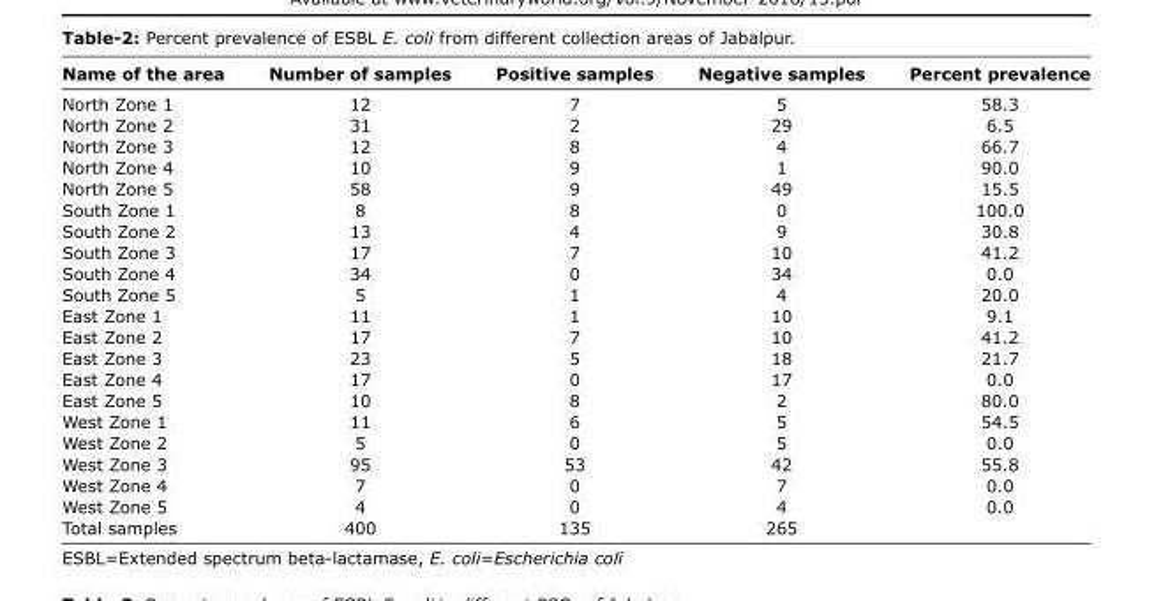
<table><thead><tr><td>Name of the area</td><td>Number of samples</td><td>Positive samples</td><td>Negative samples</td><td>Percent prevalence</td></tr></thead><tbody><tr><td>North Zone 1</td><td>12</td><td>7</td><td>5</td><td>58.3</td></tr><tr><td>North Zone 2</td><td>31</td><td>2</td><td>29</td><td>6.5</td></tr><tr><td>North Zone 3</td><td>12</td><td>8</td><td>4</td><td>66.7</td></tr><tr><td>North Zone 4</td><td>10</td><td>9</td><td>1</td><td>90.0</td></tr><tr><td>North Zone 5</td><td>58</td><td>9</td><td>49</td><td>15.5</td></tr><tr><td>South Zone 1</td><td>8</td><td>8</td><td>0</td><td>100.0</td></tr><tr><td>South Zone 2</td><td>13</td><td>4</td><td>9</td><td>30.8</td></tr><tr><td>South Zone 3</td><td>17</td><td>7</td><td>10</td><td>41.2</td></tr><tr><td>South Zone 4</td><td>34</td><td>0</td><td>34</td><td>0.0</td></tr><tr><td>South Zone 5</td><td>5</td><td>1</td><td>4</td><td>20.0</td></tr><tr><td>East Zone 1</td><td>11</td><td>1</td><td>10</td><td>9.1</td></tr><tr><td>East Zone 2</td><td>17</td><td>7</td><td>10</td><td>41.2</td></tr><tr><td>East Zone 3</td><td>23</td><td>5</td><td>18</td><td>21.7</td></tr><tr><td>East Zone 4</td><td>17</td><td>0</td><td>17</td><td>0.0</td></tr><tr><td>East Zone 5</td><td>10</td><td>8</td><td>2</td><td>80.0</td></tr><tr><td>West Zone 1</td><td>11</td><td>6</td><td>5</td><td>54.5</td></tr><tr><td>West Zone 2</td><td>5</td><td>0</td><td>5</td><td>0.0</td></tr><tr><td>West Zone 3</td><td>95</td><td>53</td><td>42</td><td>55.8</td></tr><tr><td>West Zone 4</td><td>7</td><td>0</td><td>7</td><td>0.0</td></tr><tr><td>West Zone 5</td><td>4</td><td>0</td><td>4</td><td>0.0</td></tr><tr><td>Total samples</td><td>400</td><td>135</td><td>265</td><td></td></tr></tbody></table>